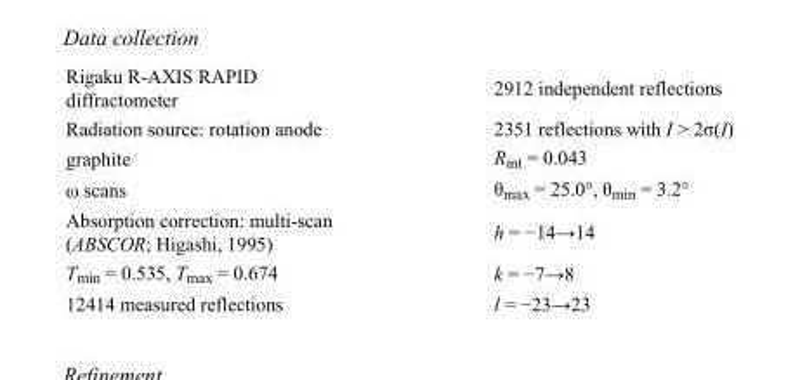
<table><tbody><tr><td>Rigaku R-AXIS RAPID diffractometer</td><td>2912 independent reflections</td></tr><tr><td>Radiation source: rotation anode</td><td>2351 reflections with I &gt; 2σ(I)</td></tr><tr><td>graphite</td><td>R<sub>int</sub> = 0.043</td></tr><tr><td>ω scans</td><td>θ<sub>max</sub> = 25.0°, θ<sub>min</sub> = 3.2°</td></tr><tr><td>Absorption correction: multi-scan (ABSCOR; Higashi, 1995)</td><td>h = −14→14</td></tr><tr><td>T<sub>min</sub> = 0.535, T<sub>max</sub> = 0.674</td><td>k = −7→8</td></tr><tr><td>12414 measured reflections</td><td>l = −23→23</td></tr></tbody></table>